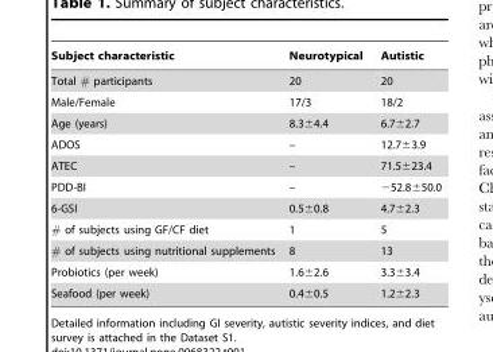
<table><thead><tr><td>Subject characteristic</td><td>Neurotypical</td><td>Autistic</td></tr></thead><tbody><tr><td>Total # participants</td><td>20</td><td>20</td></tr><tr><td>Male/Female</td><td>17/3</td><td>18/2</td></tr><tr><td>Age (years)</td><td>8.3±4.4</td><td>6.7±2.7</td></tr><tr><td>ADOS</td><td>–</td><td>12.7±3.9</td></tr><tr><td>ATEC</td><td>–</td><td>71.5±23.4</td></tr><tr><td>PDD-BI</td><td>–</td><td>−52.8±50.0</td></tr><tr><td>6-GSI</td><td>0.5±0.8</td><td>4.7±2.3</td></tr><tr><td># of subjects using GF/CF diet</td><td>1</td><td>5</td></tr><tr><td># of subjects using nutritional supplements</td><td>8</td><td>13</td></tr><tr><td>Probiotics (per week)</td><td>1.6±2.6</td><td>3.3±3.4</td></tr><tr><td>Seafood (per week)</td><td>0.4±0.5</td><td>1.2±2.3</td></tr></tbody></table>